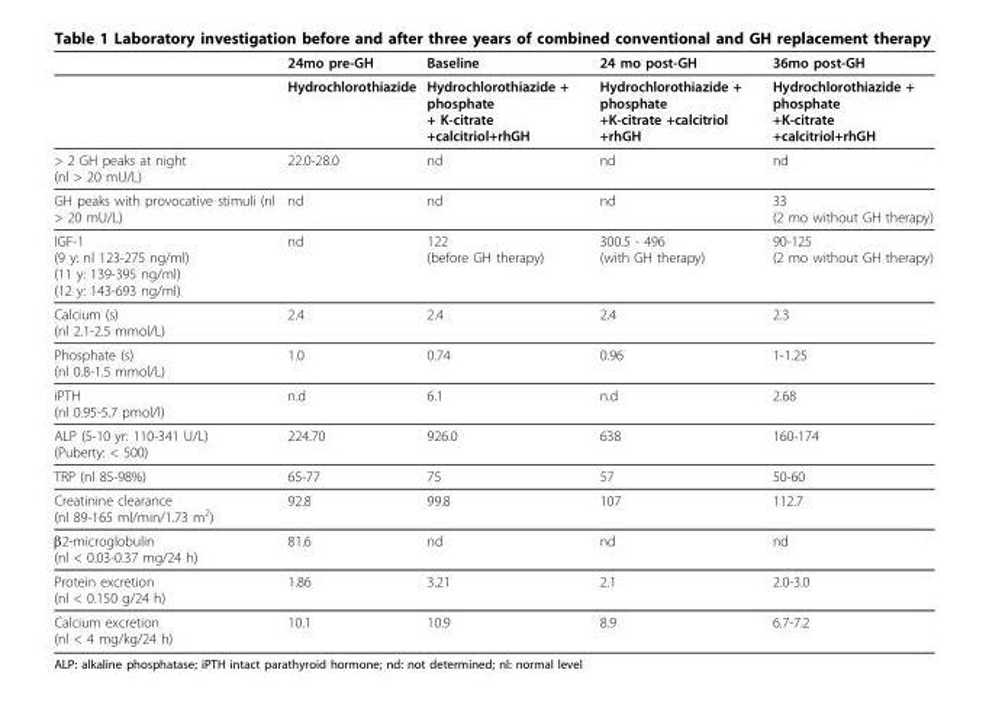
<table><thead><tr><td></td><td>24mo pre-GH</td><td>Baseline</td><td>24 mo post-GH</td><td>36mo post-GH</td></tr></thead><tbody><tr><td></td><td>Hydrochlorothiazide</td><td>Hydrochlorothiazide + phosphate + K-citrate +calcitriol+rhGH</td><td>Hydrochlorothiazide + phosphate +K-citrate +calcitriol +rhGH</td><td>Hydrochlorothiazide + phosphate +K-citrate +calcitriol+rhGH</td></tr><tr><td>&gt; 2 GH peaks at night (nl &gt; 20 mU/L)</td><td>22.0-28.0</td><td>nd</td><td>nd</td><td>nd</td></tr><tr><td>GH peaks with provocative stimuli (nl &gt; 20 mU/L)</td><td>nd</td><td>nd</td><td>nd</td><td>33 (2 mo without GH therapy)</td></tr><tr><td>IGF-1 (9 y: nl 123-275 ng/ml) (11 y: 139-395 ng/ml) (12 y: 143-693 ng/ml)</td><td>nd</td><td>122 (before GH therapy)</td><td>300.5 - 496 (with GH therapy)</td><td>90-125 (2 mo without GH therapy)</td></tr><tr><td>Calcium (s) (nl 2.1-2.5 mmol/L)</td><td>2.4</td><td>2.4</td><td>2.4</td><td>2.3</td></tr><tr><td>Phosphate (s) (nl 0.8-1.5 mmol/L)</td><td>1.0</td><td>0.74</td><td>0.96</td><td>1-1.25</td></tr><tr><td>iPTH (nl 0.95-5.7 pmol/l)</td><td>n.d</td><td>6.1</td><td>n.d</td><td>2.68</td></tr><tr><td>ALP (5-10 yr: 110-341 U/L) (Puberty: &lt; 500)</td><td>224.70</td><td>926.0</td><td>638</td><td>160-174</td></tr><tr><td>TRP (nl 85-98%)</td><td>65-77</td><td>75</td><td>57</td><td>50-60</td></tr><tr><td>Creatinine clearance (nl 89-165 ml/min/1.73 m<sup>2</sup>)</td><td>92.8</td><td>99.8</td><td>107</td><td>112.7</td></tr><tr><td>β2-microglobulin (nl &lt; 0.03-0.37 mg/24 h)</td><td>81.6</td><td>nd</td><td>nd</td><td>nd</td></tr><tr><td>Protein excretion (nl &lt; 0.150 g/24 h)</td><td>1.86</td><td>3.21</td><td>2.1</td><td>2.0-3.0</td></tr><tr><td>Calcium excretion (nl &lt; 4 mg/kg/24 h)</td><td>10.1</td><td>10.9</td><td>8.9</td><td>6.7-7.2</td></tr></tbody></table>